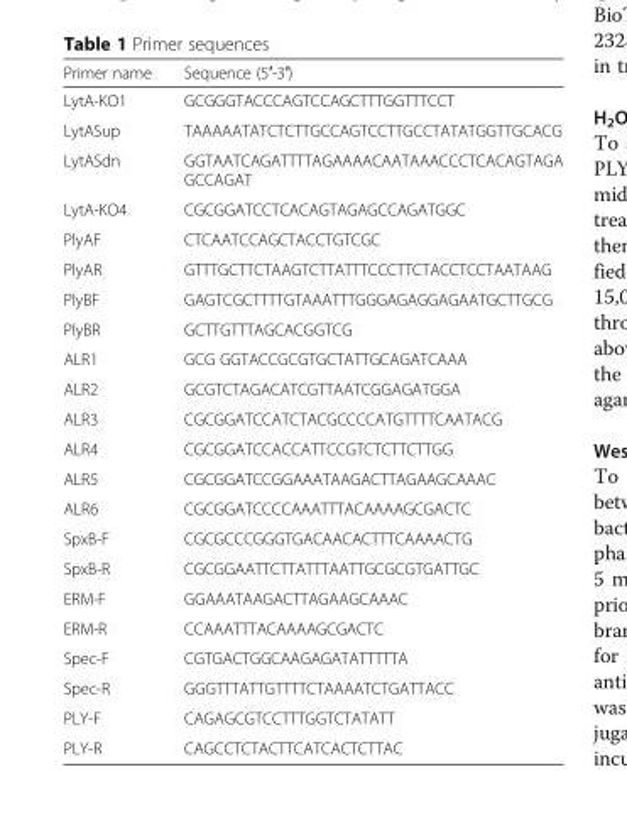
<table><thead><tr><td>Primer name</td><td>Sequence (5′-3′)</td></tr></thead><tbody><tr><td>LytA-KO1</td><td>GCGGGTACCCAGTCCAGCTTTGGTTTCCT</td></tr><tr><td>LytASup</td><td>TAAAAATATCTCTTGCCAGTCCTTGCCTATATGGTTGCACG</td></tr><tr><td>LytASdn</td><td>GGTAATCAGATTTTAGAAAACAATAAACCCTCACAGTAGA GCCAGAT</td></tr><tr><td>LytA-KO4</td><td>CGCGGATCCTCACAGTAGAGCCAGATGGC</td></tr><tr><td>PlyAF</td><td>CTCAATCCAGCTACCTGTCGC</td></tr><tr><td>PlyAR</td><td>GTTTGCTTCTAAGTCTTATTTCCCTTCTACCTCCTAATAAG</td></tr><tr><td>PlyBF</td><td>GAGTCGCTTTTGTAAATTTGGGAGAGGAGAATGCTTGCG</td></tr><tr><td>PlyBR</td><td>GCTTGTTTAGCACGGTCG</td></tr><tr><td>ALR1</td><td>GCG GGTACCGCGTGCTATTGCAGATCAAA</td></tr><tr><td>ALR2</td><td>GCGTCTAGACATCGTTAATCGGAGATGGA</td></tr><tr><td>ALR3</td><td>CGCGGATCCATCTACGCCCCATGTTTTCAATACG</td></tr><tr><td>ALR4</td><td>CGCGGATCCACCATTCCGTCTCTTCTTGG</td></tr><tr><td>ALR5</td><td>CGCGGATCCGGAAATAAGACTTAGAAGCAAAC</td></tr><tr><td>ALR6</td><td>CGCGGATCCCCAAATTTACAAAAGCGACTC</td></tr><tr><td>SpxB-F</td><td>CGCGCCCGGGTGACAACACTTTCAAAACTG</td></tr><tr><td>SpxB-R</td><td>CGCGGAATTCTTATTTAATTGCGCGTGATTGC</td></tr><tr><td>ERM-F</td><td>GGAAATAAGACTTAGAAGCAAAC</td></tr><tr><td>ERM-R</td><td>CCAAATTTACAAAAGCGACTC</td></tr><tr><td>Spec-F</td><td>CGTGACTGGCAAGAGATATTTTTA</td></tr><tr><td>Spec-R</td><td>GGGTTTATTGTTTTCTAAAATCTGATTACC</td></tr><tr><td>PLY-F</td><td>CAGAGCGTCCTTTGGTCTATATT</td></tr><tr><td>PLY-R</td><td>CAGCCTCTACTTCATCACTCTTAC</td></tr></tbody></table>